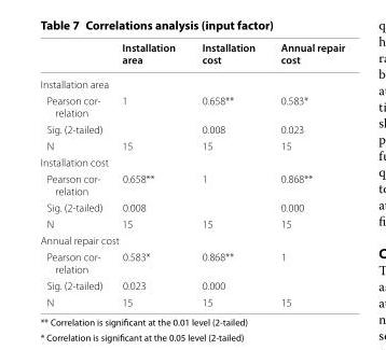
<table><thead><tr><td></td><td>Installation area</td><td>Installation cost</td><td>Annual repair cost</td></tr></thead><tbody><tr><td colspan="4">Installation area</td></tr><tr><td>Pearson cor- relation</td><td>1</td><td>0.658**</td><td>0.583*</td></tr><tr><td>Sig. (2-tailed)</td><td></td><td>0.008</td><td>0.023</td></tr><tr><td>N</td><td>15</td><td>15</td><td>15</td></tr><tr><td colspan="4">Installation cost</td></tr><tr><td>Pearson cor- relation</td><td>0.658**</td><td>1</td><td>0.868**</td></tr><tr><td>Sig. (2-tailed)</td><td>0.008</td><td></td><td>0.000</td></tr><tr><td>N</td><td>15</td><td>15</td><td>15</td></tr><tr><td colspan="4">Annual repair cost</td></tr><tr><td>Pearson cor- relation</td><td>0.583*</td><td>0.868**</td><td>1</td></tr><tr><td>Sig. (2-tailed)</td><td>0.023</td><td>0.000</td><td></td></tr><tr><td>N</td><td>15</td><td>15</td><td>15</td></tr></tbody></table>